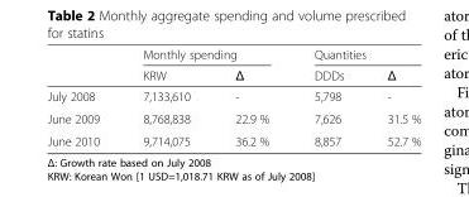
<table><thead><tr><td rowspan="2"></td><td colspan="2">Monthly spending</td><td colspan="2">Quantities</td></tr><tr><td>KRW</td><td>Δ</td><td>DDDs</td><td>Δ</td></tr></thead><tbody><tr><td>July 2008</td><td>7,133,610</td><td>-</td><td>5,798</td><td>-</td></tr><tr><td>June 2009</td><td>8,768,838</td><td>22.9 %</td><td>7,626</td><td>31.5 %</td></tr><tr><td>June 2010</td><td>9,714,075</td><td>36.2 %</td><td>8,857</td><td>52.7 %</td></tr></tbody></table>